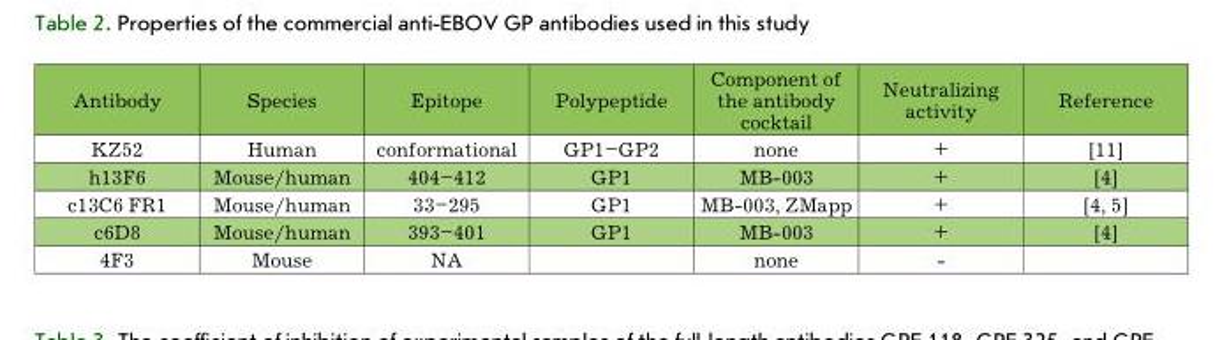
<table><thead><tr><td>Antibody</td><td>Species</td><td>Epitope</td><td>Polypeptide</td><td>Component of the antibody cocktail</td><td>Neutralizing activity</td><td>Reference</td></tr></thead><tbody><tr><td>KZ52</td><td>Human</td><td>conformational</td><td>GP1–GP2</td><td>none</td><td>+</td><td>[11]</td></tr><tr><td>h13F6</td><td>Mouse/human</td><td>404–412</td><td>GP1</td><td>MB-003</td><td>+</td><td>[4]</td></tr><tr><td>c13C6 FR1</td><td>Mouse/human</td><td>33–295</td><td>GP1</td><td>MB-003, ZMapp</td><td>+</td><td>[4, 5]</td></tr><tr><td>c6D8</td><td>Mouse/human</td><td>393–401</td><td>GP1</td><td>MB-003</td><td>+</td><td>[4]</td></tr><tr><td>4F3</td><td>Mouse</td><td>NA</td><td></td><td>none</td><td>-</td><td></td></tr></tbody></table>